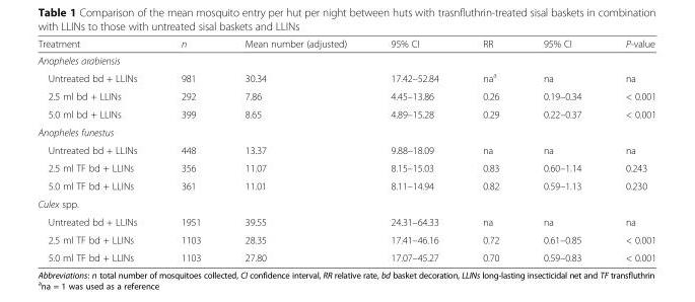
<table><thead><tr><td>Treatment</td><td>n</td><td>Mean number (adjusted)</td><td>95% CI</td><td>RR</td><td>95% CI</td><td>P-value</td></tr></thead><tbody><tr><td colspan="7">Anopheles arabiensis</td></tr><tr><td>Untreated bd + LLINs</td><td>981</td><td>30.34</td><td>17.42–52.84</td><td>na<sup>a</sup></td><td>na</td><td>na</td></tr><tr><td>2.5 ml bd + LLINs</td><td>292</td><td>7.86</td><td>4.45–13.86</td><td>0.26</td><td>0.19–0.34</td><td>&lt; 0.001</td></tr><tr><td>5.0 ml bd + LLINs</td><td>399</td><td>8.65</td><td>4.89–15.28</td><td>0.29</td><td>0.22–0.37</td><td>&lt; 0.001</td></tr><tr><td colspan="7">Anopheles funestus</td></tr><tr><td>Untreated bd + LLINs</td><td>448</td><td>13.37</td><td>9.88–18.09</td><td>na</td><td>na</td><td>na</td></tr><tr><td>2.5 ml TF bd + LLINs</td><td>356</td><td>11.07</td><td>8.15–15.03</td><td>0.83</td><td>0.60–1.14</td><td>0.243</td></tr><tr><td>5.0 ml TF bd + LLINs</td><td>361</td><td>11.01</td><td>8.11–14.94</td><td>0.82</td><td>0.59–1.13</td><td>0.230</td></tr><tr><td colspan="7">Culex spp.</td></tr><tr><td>Untreated bd + LLINs</td><td>1951</td><td>39.55</td><td>24.31–64.33</td><td>na</td><td>na</td><td>na</td></tr><tr><td>2.5 ml TF bd + LLINs</td><td>1103</td><td>28.35</td><td>17.41–46.16</td><td>0.72</td><td>0.61–0.85</td><td>&lt; 0.001</td></tr><tr><td>5.0 ml TF bd + LLINs</td><td>1103</td><td>27.80</td><td>17.07–45.27</td><td>0.70</td><td>0.59–0.83</td><td>&lt; 0.001</td></tr></tbody></table>